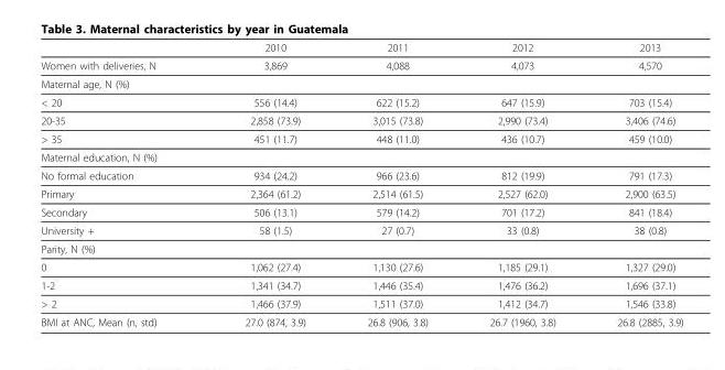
<table><thead><tr><td></td><td>2010</td><td>2011</td><td>2012</td><td>2013</td></tr></thead><tbody><tr><td>Women with deliveries, N</td><td>3,869</td><td>4,088</td><td>4,073</td><td>4,570</td></tr><tr><td colspan="5">Maternal age, N (%)</td></tr><tr><td>&lt; 20</td><td>556 (14.4)</td><td>622 (15.2)</td><td>647 (15.9)</td><td>703 (15.4)</td></tr><tr><td>20-35</td><td>2,858 (73.9)</td><td>3,015 (73.8)</td><td>2,990 (73.4)</td><td>3,406 (74.6)</td></tr><tr><td>&gt; 35</td><td>451 (11.7)</td><td>448 (11.0)</td><td>436 (10.7)</td><td>459 (10.0)</td></tr><tr><td colspan="5">Maternal education, N (%)</td></tr><tr><td>No formal education</td><td>934 (24.2)</td><td>966 (23.6)</td><td>812 (19.9)</td><td>791 (17.3)</td></tr><tr><td>Primary</td><td>2,364 (61.2)</td><td>2,514 (61.5)</td><td>2,527 (62.0)</td><td>2,900 (63.5)</td></tr><tr><td>Secondary</td><td>506 (13.1)</td><td>579 (14.2)</td><td>701 (17.2)</td><td>841 (18.4)</td></tr><tr><td>University +</td><td>58 (1.5)</td><td>27 (0.7)</td><td>33 (0.8)</td><td>38 (0.8)</td></tr><tr><td colspan="5">Parity, N (%)</td></tr><tr><td>0</td><td>1,062 (27.4)</td><td>1,130 (27.6)</td><td>1,185 (29.1)</td><td>1,327 (29.0)</td></tr><tr><td>1-2</td><td>1,341 (34.7)</td><td>1,446 (35.4)</td><td>1,476 (36.2)</td><td>1,696 (37.1)</td></tr><tr><td>&gt; 2</td><td>1,466 (37.9)</td><td>1,511 (37.0)</td><td>1,412 (34.7)</td><td>1,546 (33.8)</td></tr><tr><td>BMI at ANC, Mean (n, std)</td><td>27.0 (874, 3.9)</td><td>26.8 (906, 3.8)</td><td>26.7 (1960, 3.8)</td><td>26.8 (2885, 3.9)</td></tr></tbody></table>